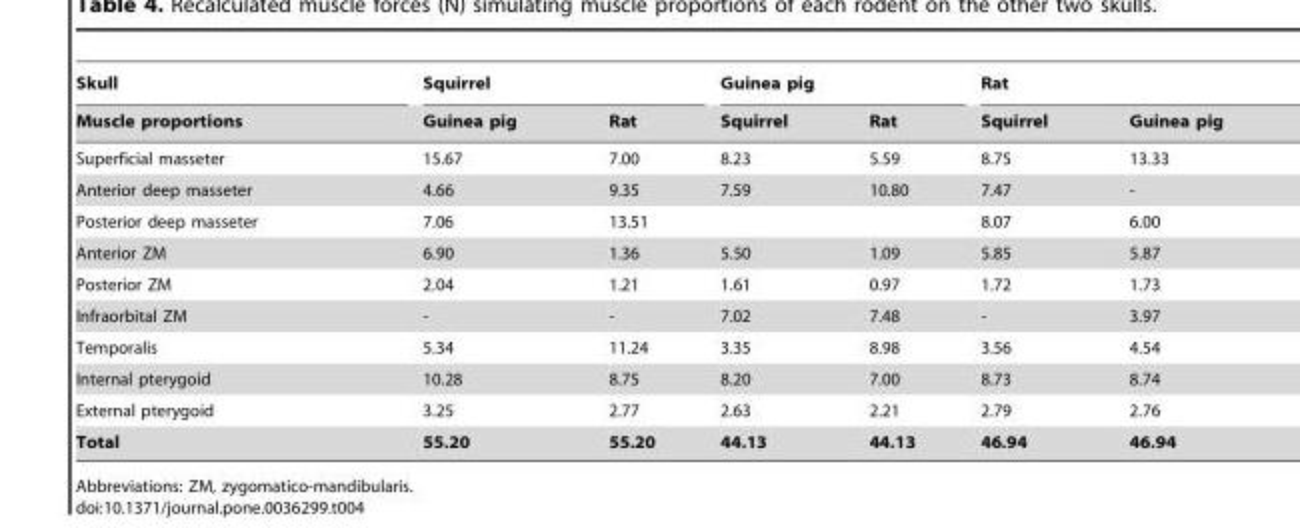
<table><thead><tr><td rowspan="2">Skull Muscle proportions</td><td colspan="2">Squirrel</td><td colspan="2">Guinea pig</td><td colspan="2">Rat</td></tr><tr><td>Guinea pig</td><td>Rat</td><td>Squirrel</td><td>Rat</td><td>Squirrel</td><td>Guinea pig</td></tr></thead><tbody><tr><td>Superficial masseter</td><td>15.67</td><td>7.00</td><td>8.23</td><td>5.59</td><td>8.75</td><td>13.33</td></tr><tr><td>Anterior deep masseter</td><td>4.66</td><td>9.35</td><td>7.59</td><td>10.80</td><td>7.47</td><td>-</td></tr><tr><td>Posterior deep masseter</td><td>7.06</td><td>13.51</td><td></td><td></td><td>8.07</td><td>6.00</td></tr><tr><td>Anterior ZM</td><td>6.90</td><td>1.36</td><td>5.50</td><td>1.09</td><td>5.85</td><td>5.87</td></tr><tr><td>Posterior ZM</td><td>2.04</td><td>1.21</td><td>1.61</td><td>0.97</td><td>1.72</td><td>1.73</td></tr><tr><td>Infraorbital ZM</td><td>-</td><td>-</td><td>7.02</td><td>7.48</td><td>-</td><td>3.97</td></tr><tr><td>Temporalis</td><td>5.34</td><td>11.24</td><td>3.35</td><td>8.98</td><td>3.56</td><td>4.54</td></tr><tr><td>Internal pterygoid</td><td>10.28</td><td>8.75</td><td>8.20</td><td>7.00</td><td>8.73</td><td>8.74</td></tr><tr><td>External pterygoid</td><td>3.25</td><td>2.77</td><td>2.63</td><td>2.21</td><td>2.79</td><td>2.76</td></tr><tr><td>Total</td><td>55.20</td><td>55.20</td><td>44.13</td><td>44.13</td><td>46.94</td><td>46.94</td></tr></tbody></table>